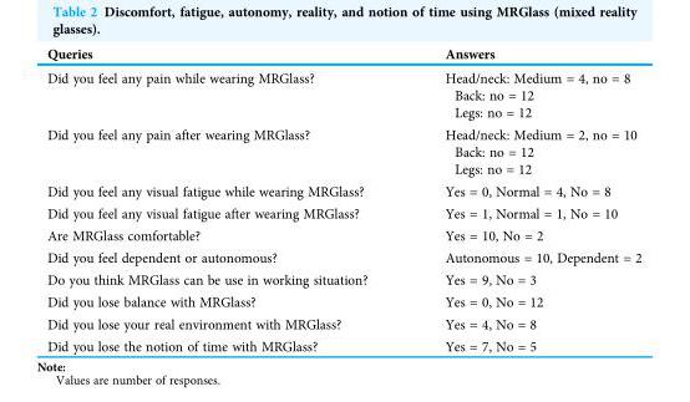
<table><thead><tr><td>Queries</td><td>Answers</td></tr></thead><tbody><tr><td>Did you feel any pain while wearing MRGlass?</td><td>Head/neck: Medium = 4, no = 8 Back: no = 12 Legs: no = 12</td></tr><tr><td>Did you feel any pain after wearing MRGlass?</td><td>Head/neck: Medium = 2, no = 10 Back: no = 12 Legs: no = 12</td></tr><tr><td>Did you feel any visual fatigue while wearing MRGlass?</td><td>Yes = 0, Normal = 4, No = 8</td></tr><tr><td>Did you feel any visual fatigue after wearing MRGlass?</td><td>Yes = 1, Normal = 1, No = 10</td></tr><tr><td>Are MRGlass comfortable?</td><td>Yes = 10, No = 2</td></tr><tr><td>Did you feel dependent or autonomous?</td><td>Autonomous = 10, Dependent = 2</td></tr><tr><td>Do you think MRGlass can be use in working situation?</td><td>Yes = 9, No = 3</td></tr><tr><td>Did you lose balance with MRGlass?</td><td>Yes = 0, No = 12</td></tr><tr><td>Did you lose your real environment with MRGlass?</td><td>Yes = 4, No = 8</td></tr><tr><td>Did you lose the notion of time with MRGlass?</td><td>Yes = 7, No = 5</td></tr></tbody></table>